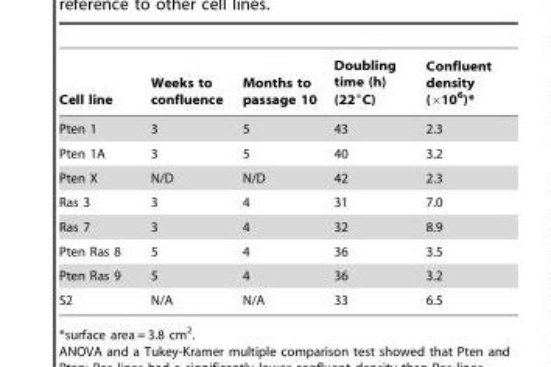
<table><thead><tr><td>Cell line</td><td>Weeks to confluence</td><td>Months to passage 10</td><td>Doubling time (h) (22°C)</td><td>Confluent density (×10<sup>6</sup>)*</td></tr></thead><tbody><tr><td>Pten 1</td><td>3</td><td>5</td><td>43</td><td>2.3</td></tr><tr><td>Pten 1A</td><td>3</td><td>5</td><td>40</td><td>3.2</td></tr><tr><td>Pten X</td><td>N/D</td><td>N/D</td><td>42</td><td>2.3</td></tr><tr><td>Ras 3</td><td>3</td><td>4</td><td>31</td><td>7.0</td></tr><tr><td>Ras 7</td><td>3</td><td>4</td><td>32</td><td>8.9</td></tr><tr><td>Pten Ras 8</td><td>5</td><td>4</td><td>36</td><td>3.5</td></tr><tr><td>Pten Ras 9</td><td>5</td><td>4</td><td>36</td><td>3.2</td></tr><tr><td>S2</td><td>N/A</td><td>N/A</td><td>33</td><td>6.5</td></tr></tbody></table>